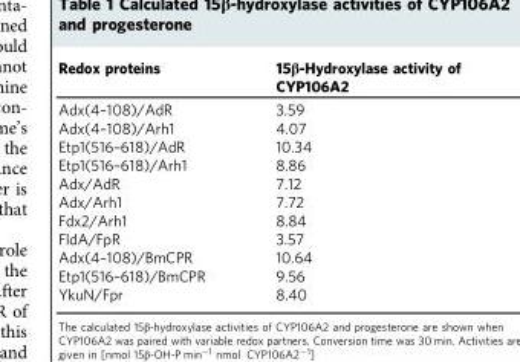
<table><thead><tr><td>Redox proteins</td><td>15β-Hydroxylase activity of CYP106A2</td></tr></thead><tbody><tr><td>Adx(4–108)/AdR</td><td>3.59</td></tr><tr><td>Adx(4–108)/Arh1</td><td>4.07</td></tr><tr><td>Etp1(516–618)/AdR</td><td>10.34</td></tr><tr><td>Etp1(516–618)/Arh1</td><td>8.86</td></tr><tr><td>Adx/AdR</td><td>7.12</td></tr><tr><td>Adx/Arh1</td><td>7.72</td></tr><tr><td>Fdx2/Arh1</td><td>8.84</td></tr><tr><td>FldA/FpR</td><td>3.57</td></tr><tr><td>Adx(4–108)/BmCPR</td><td>10.64</td></tr><tr><td>Etp1(516–618)/BmCPR</td><td>9.56</td></tr><tr><td>YkuN/Fpr</td><td>8.40</td></tr></tbody></table>